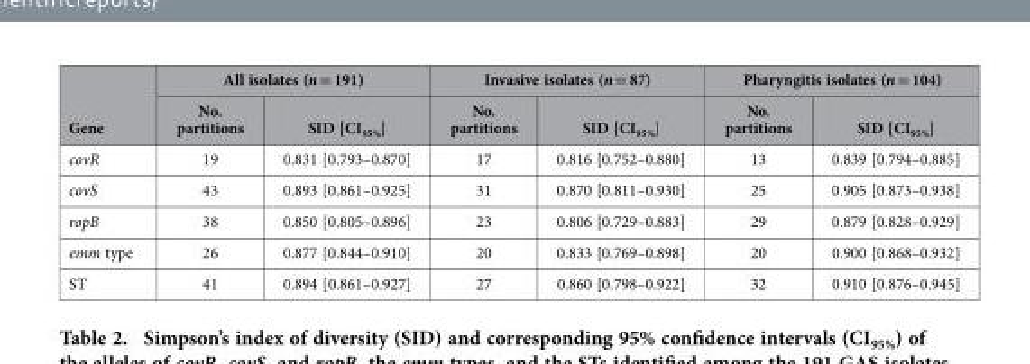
<table><thead><tr><td rowspan="2">Gene</td><td colspan="2">All isolates (n = 191)</td><td colspan="2">Invasive isolates (n = 87)</td><td colspan="2">Pharyngitis isolates (n = 104)</td></tr><tr><td>No. partitions</td><td>SID [CI<sub>95%</sub>]</td><td>No. partitions</td><td>SID [CI<sub>95%</sub>]</td><td>No. partitions</td><td>SID [CI<sub>95%</sub>]</td></tr></thead><tbody><tr><td>covR</td><td>19</td><td>0.831 [0.793–0.870]</td><td>17</td><td>0.816 [0.752–0.880]</td><td>13</td><td>0.839 [0.794–0.885]</td></tr><tr><td>covS</td><td>43</td><td>0.893 [0.861–0.925]</td><td>31</td><td>0.870 [0.811–0.930]</td><td>25</td><td>0.905 [0.873–0.938]</td></tr><tr><td>ropB</td><td>38</td><td>0.850 [0.805–0.896]</td><td>23</td><td>0.806 [0.729–0.883]</td><td>29</td><td>0.879 [0.828–0.929]</td></tr><tr><td>emm type</td><td>26</td><td>0.877 [0.844–0.910]</td><td>20</td><td>0.833 [0.769–0.898]</td><td>20</td><td>0.900 [0.868–0.932]</td></tr><tr><td>ST</td><td>41</td><td>0.894 [0.861–0.927]</td><td>27</td><td>0.860 [0.798–0.922]</td><td>32</td><td>0.910 [0.876–0.945]</td></tr></tbody></table>